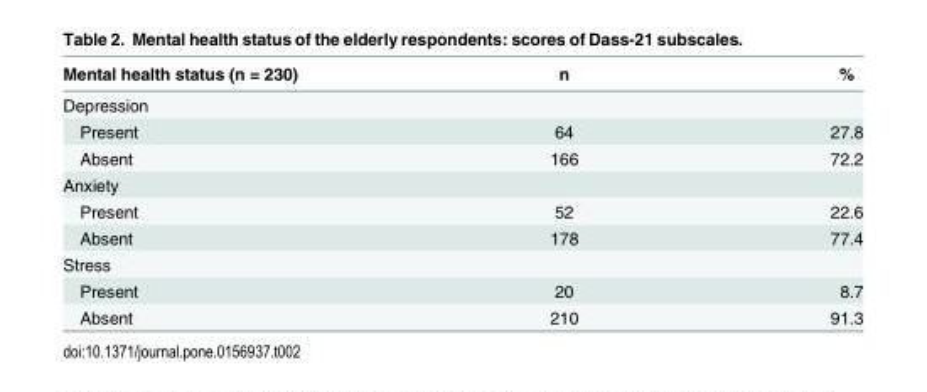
<table><thead><tr><td>Mental health status (n = 230)</td><td>n</td><td>%</td></tr></thead><tbody><tr><td colspan="3">Depression</td></tr><tr><td>Present</td><td>64</td><td>27.8</td></tr><tr><td>Absent</td><td>166</td><td>72.2</td></tr><tr><td colspan="3">Anxiety</td></tr><tr><td>Present</td><td>52</td><td>22.6</td></tr><tr><td>Absent</td><td>178</td><td>77.4</td></tr><tr><td colspan="3">Stress</td></tr><tr><td>Present</td><td>20</td><td>8.7</td></tr><tr><td>Absent</td><td>210</td><td>91.3</td></tr></tbody></table>